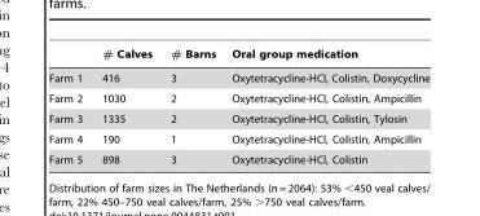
<table><thead><tr><td></td><td># Calves</td><td># Barns</td><td>Oral group medication</td></tr></thead><tbody><tr><td>Farm 1</td><td>416</td><td>3</td><td>Oxytetracycline-HCl, Colistin, Doxycycline</td></tr><tr><td>Farm 2</td><td>1030</td><td>2</td><td>Oxytetracycline-HCl, Colistin, Ampicillin</td></tr><tr><td>Farm 3</td><td>1335</td><td>2</td><td>Oxytetracycline-HCl, Colistin, Tylosin</td></tr><tr><td>Farm 4</td><td>190</td><td>1</td><td>Oxytetracycline-HCl, Colistin, Ampicillin</td></tr><tr><td>Farm 5</td><td>898</td><td>3</td><td>Oxytetracycline-HCl, Colistin</td></tr></tbody></table>